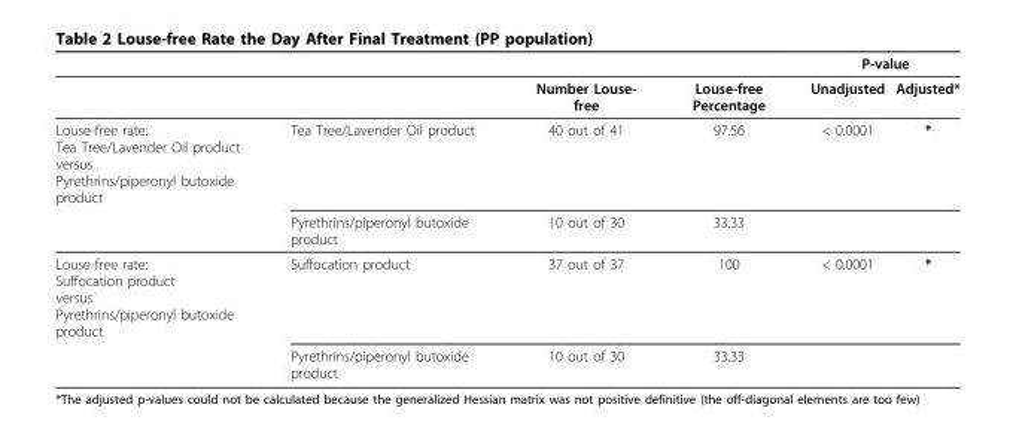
<table><thead><tr><td rowspan="2"></td><td rowspan="2"></td><td rowspan="2">Number Louse- free</td><td rowspan="2">Louse-free Percentage</td><td colspan="2">P-value</td></tr><tr><td>Unadjusted</td><td>Adjusted*</td></tr></thead><tbody><tr><td rowspan="2">Louse-free rate: Tea Tree/Lavender Oil product versus Pyrethrins/piperonyl butoxide product</td><td>Tea Tree/Lavender Oil product</td><td>40 out of 41</td><td>97.56</td><td>&lt; 0.0001</td><td>*</td></tr><tr><td>Pyrethrins/piperonyl butoxide product</td><td>10 out of 30</td><td>33.33</td><td></td><td></td></tr><tr><td rowspan="2">Louse-free rate: Suffocation product versus Pyrethrins/piperonyl butoxide product</td><td>Suffocation product</td><td>37 out of 37</td><td>100</td><td>&lt; 0.0001</td><td>*</td></tr><tr><td>Pyrethrins/piperonyl butoxide product</td><td>10 out of 30</td><td>33.33</td><td></td><td></td></tr></tbody></table>